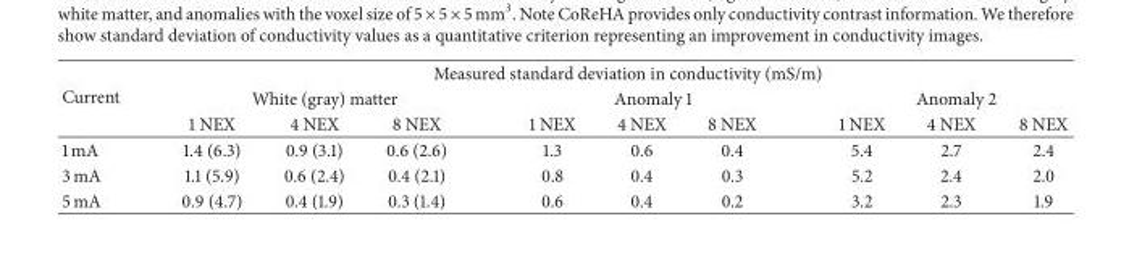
<table><thead><tr><td rowspan="3">Current</td><td colspan="9">Measured standard deviation in conductivity (mS/m)</td></tr><tr><td colspan="3">White (gray) matter</td><td colspan="3">Anomaly 1</td><td colspan="3">Anomaly 2</td></tr><tr><td>1 NEX</td><td>4 NEX</td><td>8 NEX</td><td>1 NEX</td><td>4 NEX</td><td>8 NEX</td><td>1 NEX</td><td>4 NEX</td><td>8 NEX</td></tr></thead><tbody><tr><td>1 mA</td><td>1.4 (6.3)</td><td>0.9 (3.1)</td><td>0.6 (2.6)</td><td>1.3</td><td>0.6</td><td>0.4</td><td>5.4</td><td>2.7</td><td>2.4</td></tr><tr><td>3 mA</td><td>1.1 (5.9)</td><td>0.6 (2.4)</td><td>0.4 (2.1)</td><td>0.8</td><td>0.4</td><td>0.3</td><td>5.2</td><td>2.4</td><td>2.0</td></tr><tr><td>5 mA</td><td>0.9 (4.7)</td><td>0.4 (1.9)</td><td>0.3 (1.4)</td><td>0.6</td><td>0.4</td><td>0.2</td><td>3.2</td><td>2.3</td><td>1.9</td></tr></tbody></table>